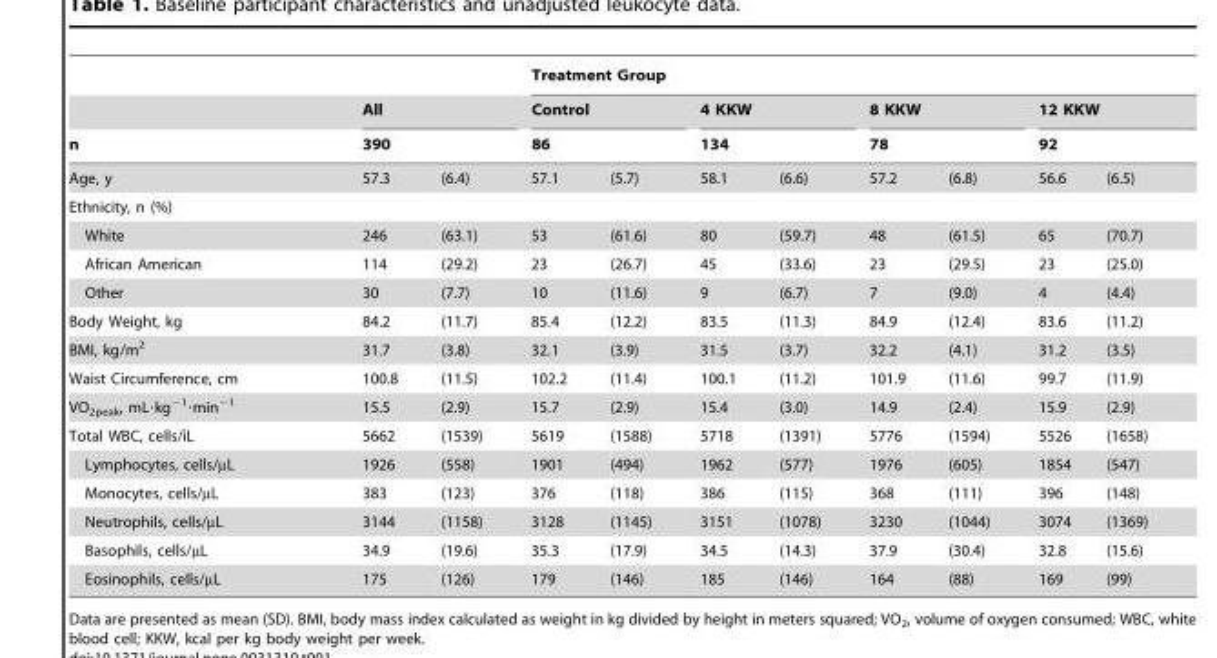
<table><thead><tr><td rowspan="4">n Age, y</td><td></td><td></td><td colspan="8">Treatment Group</td></tr><tr><td rowspan="2" colspan="2">All 390</td><td rowspan="2" colspan="2">Control 86</td><td rowspan="2" colspan="2">4 KKW 134</td><td rowspan="2" colspan="2">8 KKW 78</td><td rowspan="2" colspan="2">12 KKW 92</td></tr><tr></tr><tr><td>57.3</td><td>(6.4)</td><td>57.1</td><td>(5.7)</td><td>58.1</td><td>(6.6)</td><td>57.2</td><td>(6.8)</td><td>56.6</td><td>(6.5)</td></tr></thead><tbody><tr><td colspan="11">Ethnicity, n (%)</td></tr><tr><td>White</td><td>246</td><td>(63.1)</td><td>53</td><td>(61.6)</td><td>80</td><td>(59.7)</td><td>48</td><td>(61.5)</td><td>65</td><td>(70.7)</td></tr><tr><td>African American</td><td>114</td><td>(29.2)</td><td>23</td><td>(26.7)</td><td>45</td><td>(33.6)</td><td>23</td><td>(29.5)</td><td>23</td><td>(25.0)</td></tr><tr><td>Other</td><td>30</td><td>(7.7)</td><td>10</td><td>(11.6)</td><td>9</td><td>(6.7)</td><td>7</td><td>(9.0)</td><td>4</td><td>(4.4)</td></tr><tr><td>Body Weight, kg</td><td>84.2</td><td>(11.7)</td><td>85.4</td><td>(12.2)</td><td>83.5</td><td>(11.3)</td><td>84.9</td><td>(12.4)</td><td>83.6</td><td>(11.2)</td></tr><tr><td>BMI, kg/m<sup>2</sup></td><td>31.7</td><td>(3.8)</td><td>32.1</td><td>(3.9)</td><td>31.5</td><td>(3.7)</td><td>32.2</td><td>(4.1)</td><td>31.2</td><td>(3.5)</td></tr><tr><td>Waist Circumference, cm</td><td>100.8</td><td>(11.5)</td><td>102.2</td><td>(11.4)</td><td>100.1</td><td>(11.2)</td><td>101.9</td><td>(11.6)</td><td>99.7</td><td>(11.9)</td></tr><tr><td>VO<sub>2peak</sub>, mL⋅kg<sup>−1</sup>⋅min<sup>−1</sup></td><td>15.5</td><td>(2.9)</td><td>15.7</td><td>(2.9)</td><td>15.4</td><td>(3.0)</td><td>14.9</td><td>(2.4)</td><td>15.9</td><td>(2.9)</td></tr><tr><td>Total WBC, cells/ı`L</td><td>5662</td><td>(1539)</td><td>5619</td><td>(1588)</td><td>5718</td><td>(1391)</td><td>5776</td><td>(1594)</td><td>5526</td><td>(1658)</td></tr><tr><td>Lymphocytes, cells/µL</td><td>1926</td><td>(558)</td><td>1901</td><td>(494)</td><td>1962</td><td>(577)</td><td>1976</td><td>(605)</td><td>1854</td><td>(547)</td></tr><tr><td>Monocytes, cells/µL</td><td>383</td><td>(123)</td><td>376</td><td>(118)</td><td>386</td><td>(115)</td><td>368</td><td>(111)</td><td>396</td><td>(148)</td></tr><tr><td>Neutrophils, cells/µL</td><td>3144</td><td>(1158)</td><td>3128</td><td>(1145)</td><td>3151</td><td>(1078)</td><td>3230</td><td>(1044)</td><td>3074</td><td>(1369)</td></tr><tr><td>Basophils, cells/µL</td><td>34.9</td><td>(19.6)</td><td>35.3</td><td>(17.9)</td><td>34.5</td><td>(14.3)</td><td>37.9</td><td>(30.4)</td><td>32.8</td><td>(15.6)</td></tr><tr><td>Eosinophils, cells/µL</td><td>175</td><td>(126)</td><td>179</td><td>(146)</td><td>185</td><td>(146)</td><td>164</td><td>(88)</td><td>169</td><td>(99)</td></tr></tbody></table>